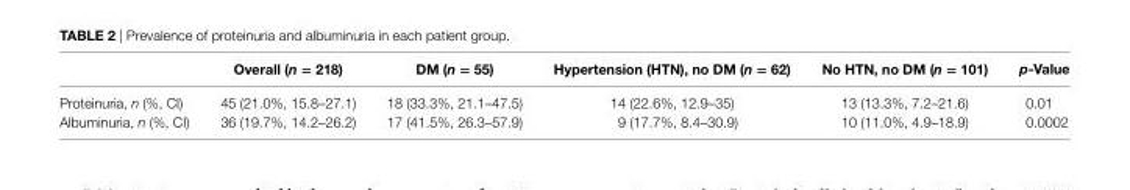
<table><thead><tr><td></td><td>Overall (n = 218)</td><td>DM (n = 55)</td><td>hypertension (hTn), no DM (n = 62)</td><td>no hTn, no DM (n = 101)</td><td>pValue</td></tr></thead><tbody><tr><td>Proteinuria, n (%, CI)</td><td>45 (21.0%, 15.8–27.1)</td><td>18 (33.3%, 21.1–47.5)</td><td>14 (22.6%, 12.9–35)</td><td>13 (13.3%, 7.2–21.6)</td><td>0.01</td></tr><tr><td>Albuminuria, n (%, CI)</td><td>36 (19.7%, 14.2–26.2)</td><td>17 (41.5%, 26.3–57.9)</td><td>9 (17.7%, 8.4–30.9)</td><td>10 (11.0%, 4.9–18.9)</td><td>0.0002</td></tr></tbody></table>